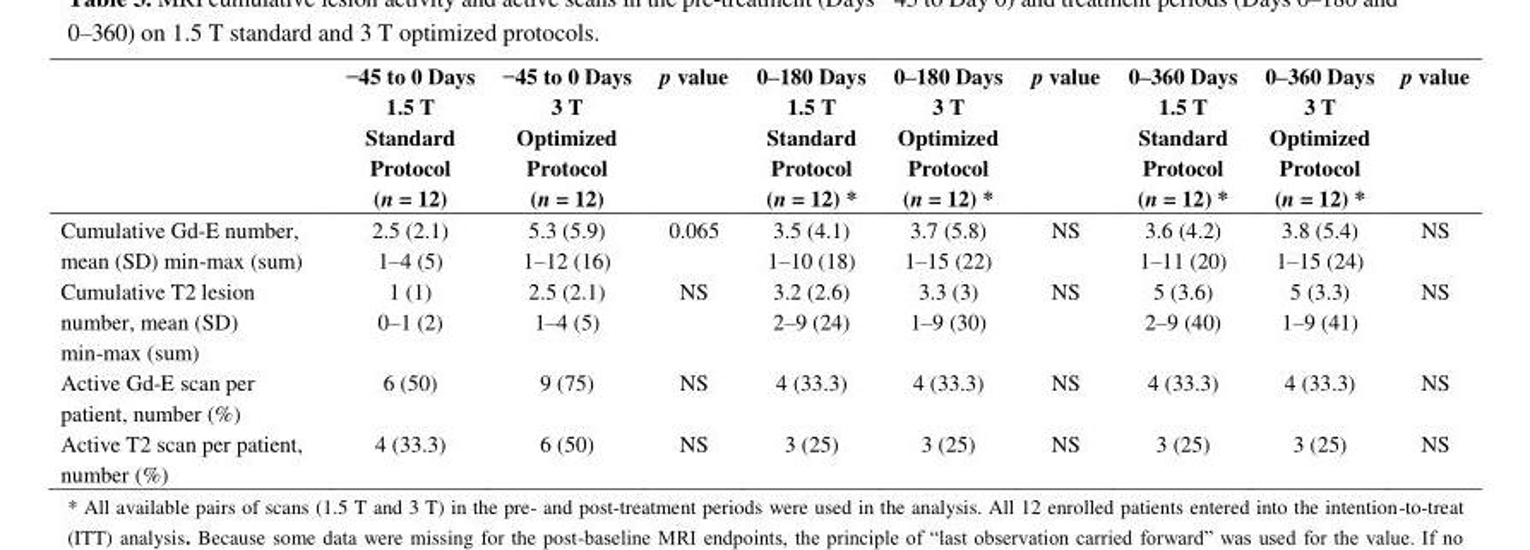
<table><thead><tr><td></td><td>−45 to 0 Days 1.5 T Standard Protocol (n = 12)</td><td>−45 to 0 Days 3 T Optimized Protocol (n = 12)</td><td>p value</td><td>0–180 Days 1.5 T Standard Protocol (n = 12) *</td><td>0–180 Days 3 T Optimized Protocol (n = 12) *</td><td>p value</td><td>0–360 Days 1.5 T Standard Protocol (n = 12) *</td><td>0–360 Days 3 T Optimized Protocol (n = 12) *</td><td>p value</td></tr></thead><tbody><tr><td>Cumulative Gd-E number, mean (SD) min-max (sum)</td><td>2.5 (2.1) 1–4 (5)</td><td>5.3 (5.9) 1–12 (16)</td><td>0.065</td><td>3.5 (4.1) 1–10 (18)</td><td>3.7 (5.8) 1–15 (22)</td><td>NS</td><td>3.6 (4.2) 1–11 (20)</td><td>3.8 (5.4) 1–15 (24)</td><td>NS</td></tr><tr><td>Cumulative T2 lesion number, mean (SD) min-max (sum)</td><td>1 (1) 0–1 (2)</td><td>2.5 (2.1) 1–4 (5)</td><td>NS</td><td>3.2 (2.6) 2–9 (24)</td><td>3.3 (3) 1–9 (30)</td><td>NS</td><td>5 (3.6) 2–9 (40)</td><td>5 (3.3) 1–9 (41)</td><td>NS</td></tr><tr><td>Active Gd-E scan per patient, number (%)</td><td>6 (50)</td><td>9 (75)</td><td>NS</td><td>4 (33.3)</td><td>4 (33.3)</td><td>NS</td><td>4 (33.3)</td><td>4 (33.3)</td><td>NS</td></tr><tr><td>Active T2 scan per patient, number (%)</td><td>4 (33.3)</td><td>6 (50)</td><td>NS</td><td>3 (25)</td><td>3 (25)</td><td>NS</td><td>3 (25)</td><td>3 (25)</td><td>NS</td></tr></tbody></table>